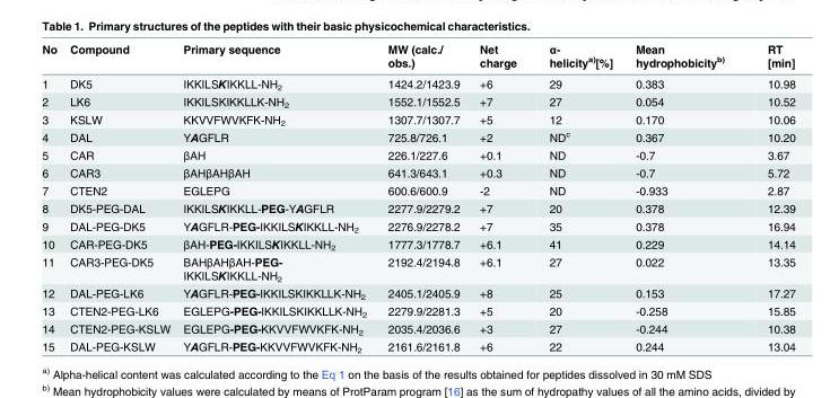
<table><thead><tr><td>No</td><td>Compound</td><td>Primary sequence</td><td>MW (calc./ obs.)</td><td>Net charge</td><td>α- helicity<sup>a)</sup>[%]</td><td>Mean hydrophobicity<sup>b)</sup></td><td>RT [min]</td></tr></thead><tbody><tr><td>1</td><td>DK5</td><td>IKKILSKIKKLL-NH<sub>2</sub></td><td>1424.2/1423.9</td><td>+6</td><td>29</td><td>0.383</td><td>10.98</td></tr><tr><td>2</td><td>LK6</td><td>IKKILSKIKKLLK-NH<sub>2</sub></td><td>1552.1/1552.5</td><td>+7</td><td>27</td><td>0.054</td><td>10.52</td></tr><tr><td>3</td><td>KSLW</td><td>KKVVFWVKFK-NH<sub>2</sub></td><td>1307.7/1307.7</td><td>+5</td><td>12</td><td>0.170</td><td>10.06</td></tr><tr><td>4</td><td>DAL</td><td>YAGFLR</td><td>725.8/726.1</td><td>+2</td><td>ND<sup>c</sup></td><td>0.367</td><td>10.20</td></tr><tr><td>5</td><td>CAR</td><td>βAH</td><td>226.1/227.6</td><td>+0.1</td><td>ND</td><td>-0.7</td><td>3.67</td></tr><tr><td>6</td><td>CAR3</td><td>βAHβAHβAH</td><td>641.3/643.1</td><td>+0.3</td><td>ND</td><td>-0.7</td><td>5.72</td></tr><tr><td>7</td><td>CTEN2</td><td>EGLEPG</td><td>600.6/600.9</td><td>-2</td><td>ND</td><td>-0.933</td><td>2.87</td></tr><tr><td>8</td><td>DK5-PEG-DAL</td><td>IKKILSKIKKLL-PEG-YAGFLR</td><td>2277.9/2279.2</td><td>+7</td><td>20</td><td>0.378</td><td>12.39</td></tr><tr><td>9</td><td>DAL-PEG-DK5</td><td>YAGFLR-PEG-IKKILSKIKKLL-NH<sub>2</sub></td><td>2276.9/2278.2</td><td>+7</td><td>35</td><td>0.378</td><td>16.94</td></tr><tr><td>10</td><td>CAR-PEG-DK5</td><td>βAH-PEG-IKKILSKIKKLL-NH<sub>2</sub></td><td>1777.3/1778.7</td><td>+6.1</td><td>41</td><td>0.229</td><td>14.14</td></tr><tr><td>11</td><td>CAR3-PEG-DK5</td><td>ΒAHβAHβAH-PEG- IKKILSKIKKLL-NH<sub>2</sub></td><td>2192.4/2194.8</td><td>+6.1</td><td>27</td><td>0.022</td><td>13.35</td></tr><tr><td>12</td><td>DAL-PEG-LK6</td><td>YAGFLR-PEG-IKKILSKIKKLLK-NH<sub>2</sub></td><td>2405.1/2405.9</td><td>+8</td><td>25</td><td>0.153</td><td>17.27</td></tr><tr><td>13</td><td>CTEN2-PEG-LK6</td><td>EGLEPG-PEG-IKKILSKIKKLLK-NH<sub>2</sub></td><td>2279.9/2281.3</td><td>+5</td><td>20</td><td>-0.258</td><td>15.85</td></tr><tr><td>14</td><td>CTEN2-PEG-KSLW</td><td>EGLEPG-PEG-KKVVFWVKFK-NH<sub>2</sub></td><td>2035.4/2036.6</td><td>+3</td><td>27</td><td>-0.244</td><td>10.38</td></tr><tr><td>15</td><td>DAL-PEG-KSLW</td><td>YAGFLR-PEG-KKVVFWVKFK-NH<sub>2</sub></td><td>2161.6/2161.8</td><td>+6</td><td>22</td><td>0.244</td><td>13.04</td></tr></tbody></table>